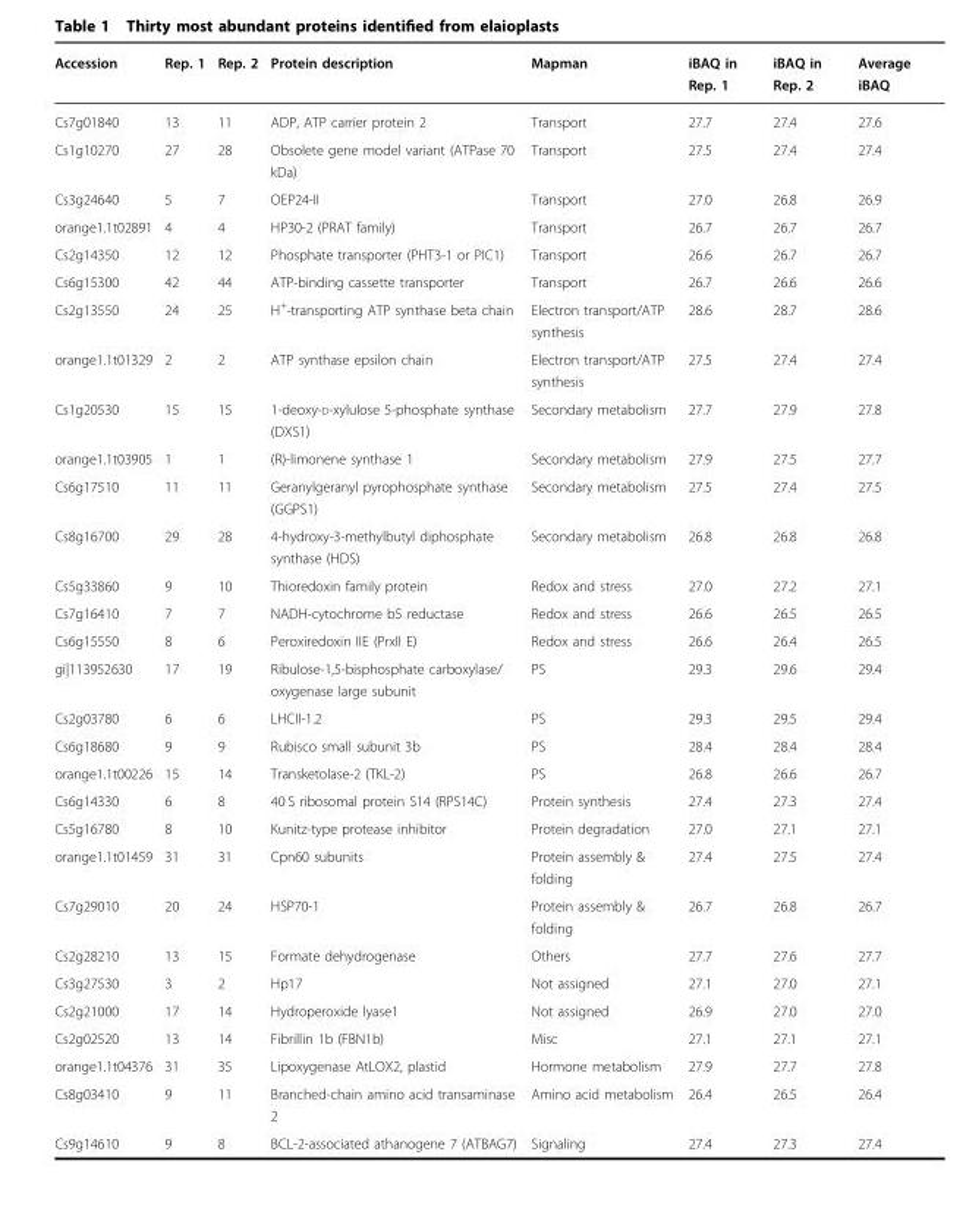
<table><thead><tr><td>Accession</td><td>Rep. 1</td><td>Rep. 2</td><td>Protein description</td><td>Mapman</td><td>iBAQ in Rep. 1</td><td>iBAQ in Rep. 2</td><td>Average iBAQ</td></tr></thead><tbody><tr><td>Cs7g01840</td><td>13</td><td>11</td><td>ADP, ATP carrier protein 2</td><td>Transport</td><td>27.7</td><td>27.4</td><td>27.6</td></tr><tr><td>Cs1g10270</td><td>27</td><td>28</td><td>Obsolete gene model variant (ATPase 70 kDa)</td><td>Transport</td><td>27.5</td><td>27.4</td><td>27.4</td></tr><tr><td>Cs3g24640</td><td>5</td><td>7</td><td>OEP24-II</td><td>Transport</td><td>27.0</td><td>26.8</td><td>26.9</td></tr><tr><td>orange1.1t02891</td><td>4</td><td>4</td><td>HP30-2 (PRAT family)</td><td>Transport</td><td>26.7</td><td>26.7</td><td>26.7</td></tr><tr><td>Cs2g14350</td><td>12</td><td>12</td><td>Phosphate transporter (PHT3-1 or PIC1)</td><td>Transport</td><td>26.6</td><td>26.7</td><td>26.7</td></tr><tr><td>Cs6g15300</td><td>42</td><td>44</td><td>ATP-binding cassette transporter</td><td>Transport</td><td>26.7</td><td>26.6</td><td>26.6</td></tr><tr><td>Cs2g13550</td><td>24</td><td>25</td><td>H<sup>+</sup>-transporting ATP synthase beta chain</td><td>Electron transport/ATP synthesis</td><td>28.6</td><td>28.7</td><td>28.6</td></tr><tr><td>orange1.1t01329</td><td>2</td><td>2</td><td>ATP synthase epsilon chain</td><td>Electron transport/ATP synthesis</td><td>27.5</td><td>27.4</td><td>27.4</td></tr><tr><td>Cs1g20530</td><td>15</td><td>15</td><td>1-deoxy-D-xylulose 5-phosphate synthase (DXS1)</td><td>Secondary metabolism</td><td>27.7</td><td>27.9</td><td>27.8</td></tr><tr><td>orange1.1t03905</td><td>1</td><td>1</td><td>(R)-limonene synthase 1</td><td>Secondary metabolism</td><td>27.9</td><td>27.5</td><td>27.7</td></tr><tr><td>Cs6g17510</td><td>11</td><td>11</td><td>Geranylgeranyl pyrophosphate synthase (GGPS1)</td><td>Secondary metabolism</td><td>27.5</td><td>27.4</td><td>27.5</td></tr><tr><td>Cs8g16700</td><td>29</td><td>28</td><td>4-hydroxy-3-methylbutyl diphosphate synthase (HDS)</td><td>Secondary metabolism</td><td>26.8</td><td>26.8</td><td>26.8</td></tr><tr><td>Cs5g33860</td><td>9</td><td>10</td><td>Thioredoxin family protein</td><td>Redox and stress</td><td>27.0</td><td>27.2</td><td>27.1</td></tr><tr><td>Cs7g16410</td><td>7</td><td>7</td><td>NADH-cytochrome b5 reductase</td><td>Redox and stress</td><td>26.6</td><td>26.5</td><td>26.5</td></tr><tr><td>Cs6g15550</td><td>8</td><td>6</td><td>Peroxiredoxin IIE (PrxII E)</td><td>Redox and stress</td><td>26.6</td><td>26.4</td><td>26.5</td></tr><tr><td>gi|113952630</td><td>17</td><td>19</td><td>Ribulose-1,5-bisphosphate carboxylase/ oxygenase large subunit</td><td>PS</td><td>29.3</td><td>29.6</td><td>29.4</td></tr><tr><td>Cs2g03780</td><td>6</td><td>6</td><td>LHCII-1.2</td><td>PS</td><td>29.3</td><td>29.5</td><td>29.4</td></tr><tr><td>Cs6g18680</td><td>9</td><td>9</td><td>Rubisco small subunit 3b</td><td>PS</td><td>28.4</td><td>28.4</td><td>28.4</td></tr><tr><td>orange1.1t00226</td><td>15</td><td>14</td><td>Transketolase-2 (TKL-2)</td><td>PS</td><td>26.8</td><td>26.6</td><td>26.7</td></tr><tr><td>Cs6g14330</td><td>6</td><td>8</td><td>40 S ribosomal protein S14 (RPS14C)</td><td>Protein synthesis</td><td>27.4</td><td>27.3</td><td>27.4</td></tr><tr><td>Cs5g16780</td><td>8</td><td>10</td><td>Kunitz-type protease inhibitor</td><td>Protein degradation</td><td>27.0</td><td>27.1</td><td>27.1</td></tr><tr><td>orange1.1t01459</td><td>31</td><td>31</td><td>Cpn60 subunits</td><td>Protein assembly &amp; folding</td><td>27.4</td><td>27.5</td><td>27.4</td></tr><tr><td>Cs7g29010</td><td>20</td><td>24</td><td>HSP70-1</td><td>Protein assembly &amp; folding</td><td>26.7</td><td>26.8</td><td>26.7</td></tr><tr><td>Cs2g28210</td><td>13</td><td>15</td><td>Formate dehydrogenase</td><td>Others</td><td>27.7</td><td>27.6</td><td>27.7</td></tr><tr><td>Cs3g27530</td><td>3</td><td>2</td><td>Hp17</td><td>Not assigned</td><td>27.1</td><td>27.0</td><td>27.1</td></tr><tr><td>Cs2g21000</td><td>17</td><td>14</td><td>Hydroperoxide lyase1</td><td>Not assigned</td><td>26.9</td><td>27.0</td><td>27.0</td></tr><tr><td>Cs2g02520</td><td>13</td><td>14</td><td>Fibrillin 1b (FBN1b)</td><td>Misc</td><td>27.1</td><td>27.1</td><td>27.1</td></tr><tr><td>orange1.1t04376</td><td>31</td><td>35</td><td>Lipoxygenase AtLOX2, plastid</td><td>Hormone metabolism</td><td>27.9</td><td>27.7</td><td>27.8</td></tr><tr><td>Cs8g03410</td><td>9</td><td>11</td><td>Branched-chain amino acid transaminase 2</td><td>Amino acid metabolism</td><td>26.4</td><td>26.5</td><td>26.4</td></tr><tr><td>Cs9g14610</td><td>9</td><td>8</td><td>BCL-2-associated athanogene 7 (ATBAG7)</td><td>Signaling</td><td>27.4</td><td>27.3</td><td>27.4</td></tr></tbody></table>